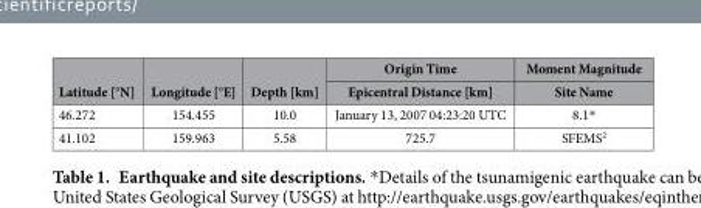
<table><thead><tr><td rowspan="2">Latitude [°N]</td><td rowspan="2">Longitude [°E]</td><td rowspan="2">Depth [km]</td><td rowspan="2">Origin Time Epicentral Distance [km]</td><td rowspan="2">Moment Magnitude Site Name</td></tr><tr></tr></thead><tbody><tr><td>46.272</td><td>154.455</td><td>10.0</td><td>January 13, 2007 04:23:20 UTC</td><td>8.1*</td></tr><tr><td>41.102</td><td>159.963</td><td>5.58</td><td>725.7</td><td>SFEMS<sup>2</sup></td></tr></tbody></table>